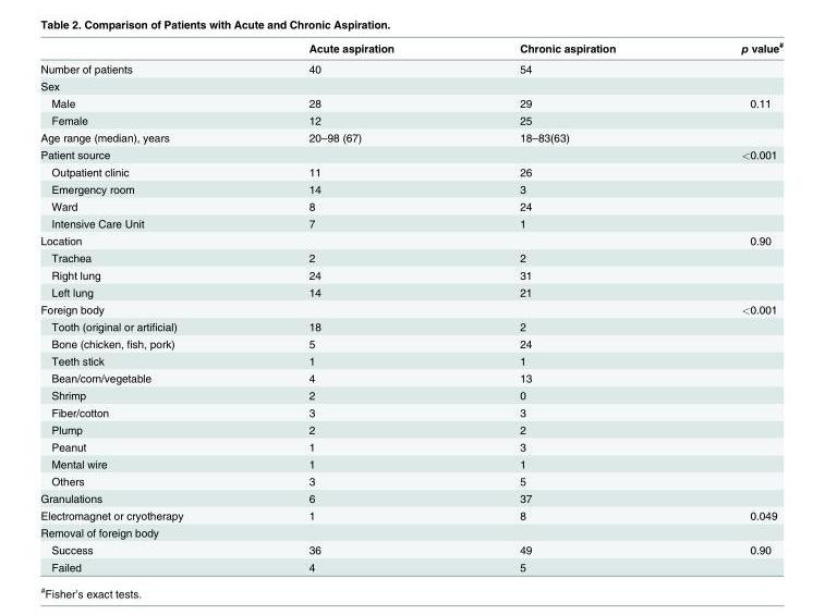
<table><thead><tr><td></td><td>Acute aspiration</td><td>Chronic aspiration</td><td>p value<sup>#</sup></td></tr></thead><tbody><tr><td>Number of patients</td><td>40</td><td>54</td><td></td></tr><tr><td colspan="4">Sex</td></tr><tr><td>Male</td><td>28</td><td>29</td><td>0.11</td></tr><tr><td>Female</td><td>12</td><td>25</td><td></td></tr><tr><td>Age range (median), years</td><td>20–98 (67)</td><td>18–83(63)</td><td></td></tr><tr><td>Patient source</td><td></td><td></td><td>&lt;0.001</td></tr><tr><td>Outpatient clinic</td><td>11</td><td>26</td><td></td></tr><tr><td>Emergency room</td><td>14</td><td>3</td><td></td></tr><tr><td>Ward</td><td>8</td><td>24</td><td></td></tr><tr><td>Intensive Care Unit</td><td>7</td><td>1</td><td></td></tr><tr><td>Location</td><td></td><td></td><td>0.90</td></tr><tr><td>Trachea</td><td>2</td><td>2</td><td></td></tr><tr><td>Right lung</td><td>24</td><td>31</td><td></td></tr><tr><td>Left lung</td><td>14</td><td>21</td><td></td></tr><tr><td>Foreign body</td><td></td><td></td><td>&lt;0.001</td></tr><tr><td>Tooth (original or artificial)</td><td>18</td><td>2</td><td></td></tr><tr><td>Bone (chicken, fish, pork)</td><td>5</td><td>24</td><td></td></tr><tr><td>Teeth stick</td><td>1</td><td>1</td><td></td></tr><tr><td>Bean/corn/vegetable</td><td>4</td><td>13</td><td></td></tr><tr><td>Shrimp</td><td>2</td><td>0</td><td></td></tr><tr><td>Fiber/cotton</td><td>3</td><td>3</td><td></td></tr><tr><td>Plump</td><td>2</td><td>2</td><td></td></tr><tr><td>Peanut</td><td>1</td><td>3</td><td></td></tr><tr><td>Mental wire</td><td>1</td><td>1</td><td></td></tr><tr><td>Others</td><td>3</td><td>5</td><td></td></tr><tr><td>Granulations</td><td>6</td><td>37</td><td></td></tr><tr><td>Electromagnet or cryotherapy</td><td>1</td><td>8</td><td>0.049</td></tr><tr><td colspan="4">Removal of foreign body</td></tr><tr><td>Success</td><td>36</td><td>49</td><td>0.90</td></tr><tr><td>Failed</td><td>4</td><td>5</td><td></td></tr></tbody></table>